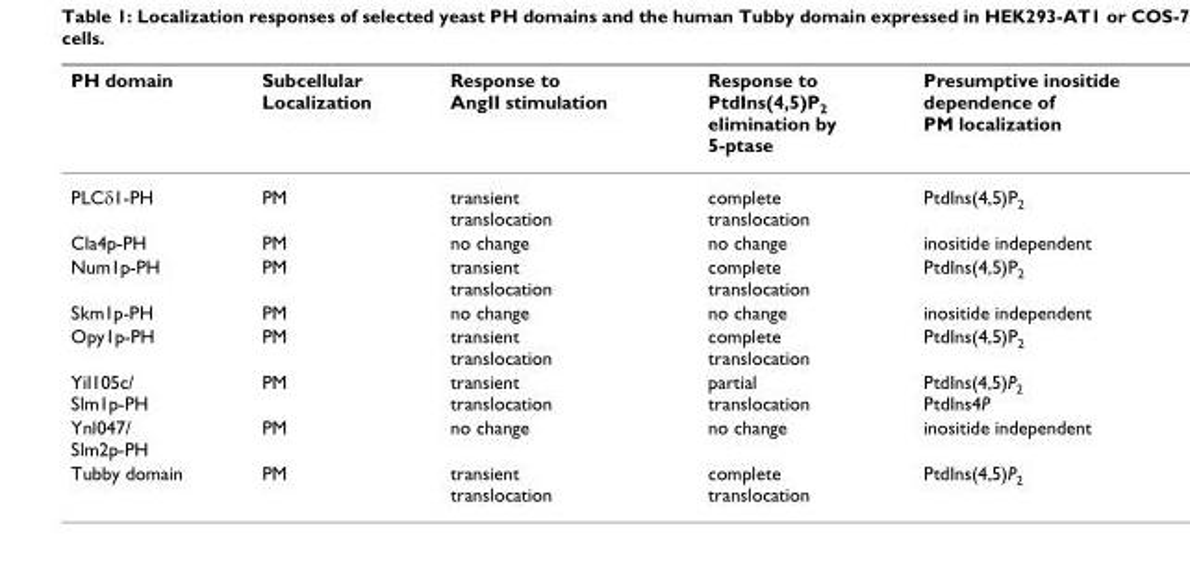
<table><thead><tr><td>PH domain</td><td>Subcellular Localization</td><td>Response to AngII stimulation</td><td>Response to PtdIns(4,5)P<sub>2</sub> elimination by 5-ptase</td><td>Presumptive inositide dependence of PM localization</td></tr></thead><tbody><tr><td>PLCδ1-PH</td><td>PM</td><td>transient translocation</td><td>complete translocation</td><td>PtdIns(4,5)P<sub>2</sub></td></tr><tr><td>Cla4p-PH</td><td>PM</td><td>no change</td><td>no change</td><td>inositide independent</td></tr><tr><td>Num1p-PH</td><td>PM</td><td>transient translocation</td><td>complete translocation</td><td>PtdIns(4,5)P<sub>2</sub></td></tr><tr><td>Skm1p-PH</td><td>PM</td><td>no change</td><td>no change</td><td>inositide independent</td></tr><tr><td>Opy1p-PH</td><td>PM</td><td>transient translocation</td><td>complete translocation</td><td>PtdIns(4,5)P<sub>2</sub></td></tr><tr><td>Yil105c/ Slm1p-PH</td><td>PM</td><td>transient translocation</td><td>partial translocation</td><td>PtdIns(4,5)P<sub>2</sub> PtdIns4P</td></tr><tr><td>Ynl047/ Slm2p-PH</td><td>PM</td><td>no change</td><td>no change</td><td>inositide independent</td></tr><tr><td>Tubby domain</td><td>PM</td><td>transient translocation</td><td>complete translocation</td><td>PtdIns(4,5)P<sub>2</sub></td></tr></tbody></table>